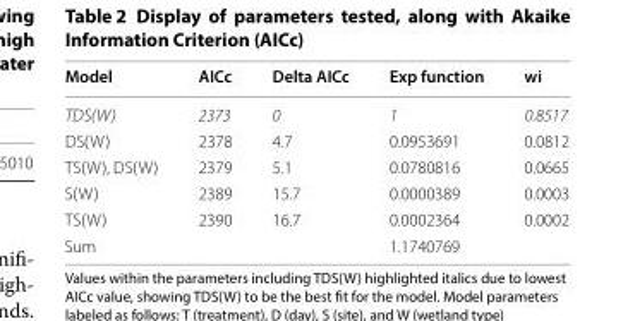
<table><thead><tr><td>Model</td><td>AICc</td><td>Delta AICc</td><td>Exp function</td><td>wi</td></tr></thead><tbody><tr><td>TDS(W)</td><td>2373</td><td>0</td><td>1</td><td>0.8517</td></tr><tr><td>DS(W)</td><td>2378</td><td>4.7</td><td>0.0953691</td><td>0.0812</td></tr><tr><td>TS(W), DS(W)</td><td>2379</td><td>5.1</td><td>0.0780816</td><td>0.0665</td></tr><tr><td>S(W)</td><td>2389</td><td>15.7</td><td>0.0000389</td><td>0.0003</td></tr><tr><td>TS(W)</td><td>2390</td><td>16.7</td><td>0.0002364</td><td>0.0002</td></tr><tr><td>Sum</td><td></td><td></td><td>1.1740769</td><td></td></tr></tbody></table>